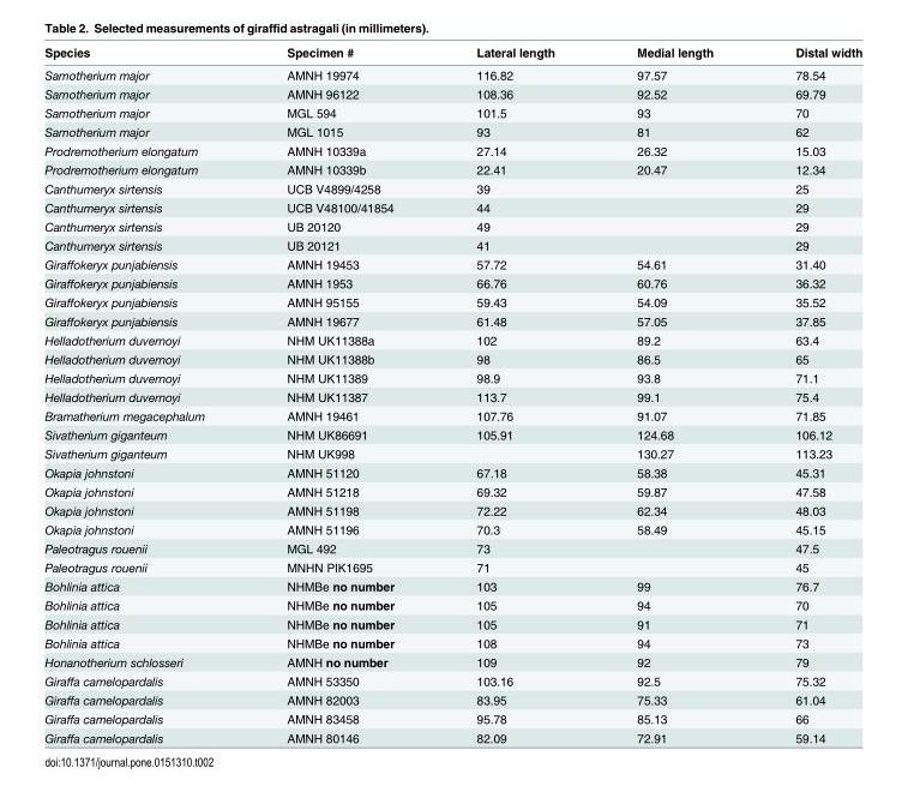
<table><thead><tr><td>Species</td><td>Specimen #</td><td>Lateral length</td><td>Medial length</td><td>Distal width</td></tr></thead><tbody><tr><td>Samotherium major</td><td>AMNH 19974</td><td>116.82</td><td>97.57</td><td>78.54</td></tr><tr><td>Samotherium major</td><td>AMNH 96122</td><td>108.36</td><td>92.52</td><td>69.79</td></tr><tr><td>Samotherium major</td><td>MGL 594</td><td>101.5</td><td>93</td><td>70</td></tr><tr><td>Samotherium major</td><td>MGL 1015</td><td>93</td><td>81</td><td>62</td></tr><tr><td>Prodremotherium elongatum</td><td>AMNH 10339a</td><td>27.14</td><td>26.32</td><td>15.03</td></tr><tr><td>Prodremotherium elongatum</td><td>AMNH 10339b</td><td>22.41</td><td>20.47</td><td>12.34</td></tr><tr><td>Canthumeryx sirtensis</td><td>UCB V4899/4258</td><td>39</td><td></td><td>25</td></tr><tr><td>Canthumeryx sirtensis</td><td>UCB V48100/41854</td><td>44</td><td></td><td>29</td></tr><tr><td>Canthumeryx sirtensis</td><td>UB 20120</td><td>49</td><td></td><td>29</td></tr><tr><td>Canthumeryx sirtensis</td><td>UB 20121</td><td>41</td><td></td><td>29</td></tr><tr><td>Giraffokeryx punjabiensis</td><td>AMNH 19453</td><td>57.72</td><td>54.61</td><td>31.40</td></tr><tr><td>Giraffokeryx punjabiensis</td><td>AMNH 1953</td><td>66.76</td><td>60.76</td><td>36.32</td></tr><tr><td>Giraffokeryx punjabiensis</td><td>AMNH 95155</td><td>59.43</td><td>54.09</td><td>35.52</td></tr><tr><td>Giraffokeryx punjabiensis</td><td>AMNH 19677</td><td>61.48</td><td>57.05</td><td>37.85</td></tr><tr><td>Helladotherium duvernoyi</td><td>NHM UK11388a</td><td>102</td><td>89.2</td><td>63.4</td></tr><tr><td>Helladotherium duvernoyi</td><td>NHM UK11388b</td><td>98</td><td>86.5</td><td>65</td></tr><tr><td>Helladotherium duvernoyi</td><td>NHM UK11389</td><td>98.9</td><td>93.8</td><td>71.1</td></tr><tr><td>Helladotherium duvernoyi</td><td>NHM UK11387</td><td>113.7</td><td>99.1</td><td>75.4</td></tr><tr><td>Bramatherium megacephalum</td><td>AMNH 19461</td><td>107.76</td><td>91.07</td><td>71.85</td></tr><tr><td>Sivatherium giganteum</td><td>NHM UK86691</td><td>105.91</td><td>124.68</td><td>106.12</td></tr><tr><td>Sivatherium giganteum</td><td>NHM UK998</td><td></td><td>130.27</td><td>113.23</td></tr><tr><td>Okapia johnstoni</td><td>AMNH 51120</td><td>67.18</td><td>58.38</td><td>45.31</td></tr><tr><td>Okapia johnstoni</td><td>AMNH 51218</td><td>69.32</td><td>59.87</td><td>47.58</td></tr><tr><td>Okapia johnstoni</td><td>AMNH 51198</td><td>72.22</td><td>62.34</td><td>48.03</td></tr><tr><td>Okapia johnstoni</td><td>AMNH 51196</td><td>70.3</td><td>58.49</td><td>45.15</td></tr><tr><td>Paleotragus rouenii</td><td>MGL 492</td><td>73</td><td></td><td>47.5</td></tr><tr><td>Paleotragus rouenii</td><td>MNHN PIK1695</td><td>71</td><td></td><td>45</td></tr><tr><td>Bohlinia attica</td><td>NHMBe no number</td><td>103</td><td>99</td><td>76.7</td></tr><tr><td>Bohlinia attica</td><td>NHMBe no number</td><td>105</td><td>94</td><td>70</td></tr><tr><td>Bohlinia attica</td><td>NHMBe no number</td><td>105</td><td>91</td><td>71</td></tr><tr><td>Bohlinia attica</td><td>NHMBe no number</td><td>108</td><td>94</td><td>73</td></tr><tr><td>Honanotherium schlosseri</td><td>AMNH no number</td><td>109</td><td>92</td><td>79</td></tr><tr><td>Giraffa camelopardalis</td><td>AMNH 53350</td><td>103.16</td><td>92.5</td><td>75.32</td></tr><tr><td>Giraffa camelopardalis</td><td>AMNH 82003</td><td>83.95</td><td>75.33</td><td>61.04</td></tr><tr><td>Giraffa camelopardalis</td><td>AMNH 83458</td><td>95.78</td><td>85.13</td><td>66</td></tr><tr><td>Giraffa camelopardalis</td><td>AMNH 80146</td><td>82.09</td><td>72.91</td><td>59.14</td></tr></tbody></table>